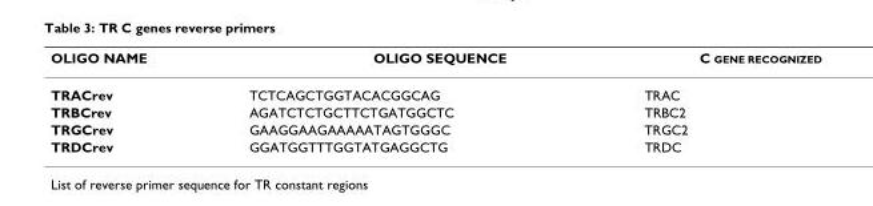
<table><thead><tr><td>OLIGO NAME</td><td>OLIGO SEQUENCE</td><td>C GENE RECOGNIZED</td></tr></thead><tbody><tr><td>TRACrev</td><td>TCTCAGCTGGTACACGGCAG</td><td>TRAC</td></tr><tr><td>TRBCrev</td><td>AGATCTCTGCTTCTGATGGCTC</td><td>TRBC2</td></tr><tr><td>TRGCrev</td><td>GAAGGAAGAAAAATAGTGGGC</td><td>TRGC2</td></tr><tr><td>TRDCrev</td><td>GGATGGTTTGGTATGAGGCTG</td><td>TRDC</td></tr></tbody></table>